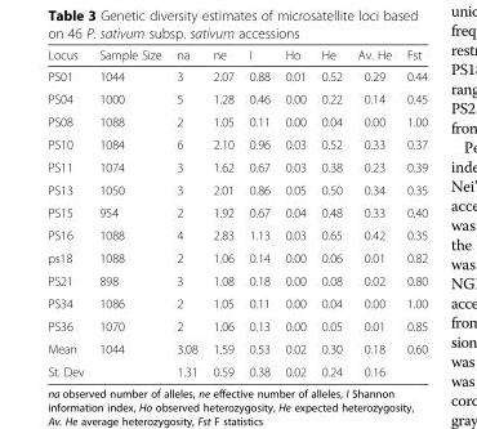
<table><thead><tr><td>Locus</td><td>Sample Size</td><td>na</td><td>ne</td><td>I</td><td>Ho</td><td>He</td><td>Av. He</td><td>Fst</td></tr></thead><tbody><tr><td>PS01</td><td>1044</td><td>3</td><td>2.07</td><td>0.88</td><td>0.01</td><td>0.52</td><td>0.29</td><td>0.44</td></tr><tr><td>PS04</td><td>1000</td><td>5</td><td>1.28</td><td>0.46</td><td>0.00</td><td>0.22</td><td>0.14</td><td>0.45</td></tr><tr><td>PS08</td><td>1088</td><td>2</td><td>1.05</td><td>0.11</td><td>0.00</td><td>0.04</td><td>0.00</td><td>1.00</td></tr><tr><td>PS10</td><td>1084</td><td>6</td><td>2.10</td><td>0.96</td><td>0.03</td><td>0.52</td><td>0.33</td><td>0.37</td></tr><tr><td>PS11</td><td>1074</td><td>3</td><td>1.62</td><td>0.67</td><td>0.03</td><td>0.38</td><td>0.23</td><td>0.39</td></tr><tr><td>PS13</td><td>1050</td><td>3</td><td>2.01</td><td>0.86</td><td>0.05</td><td>0.50</td><td>0.34</td><td>0.35</td></tr><tr><td>PS15</td><td>954</td><td>2</td><td>1.92</td><td>0.67</td><td>0.04</td><td>0.48</td><td>0.33</td><td>0.40</td></tr><tr><td>PS16</td><td>1088</td><td>4</td><td>2.83</td><td>1.13</td><td>0.03</td><td>0.65</td><td>0.42</td><td>0.35</td></tr><tr><td>ps18</td><td>1088</td><td>2</td><td>1.06</td><td>0.14</td><td>0.00</td><td>0.06</td><td>0.01</td><td>0.82</td></tr><tr><td>PS21</td><td>898</td><td>3</td><td>1.08</td><td>0.18</td><td>0.00</td><td>0.08</td><td>0.02</td><td>0.80</td></tr><tr><td>PS34</td><td>1086</td><td>2</td><td>1.05</td><td>0.11</td><td>0.00</td><td>0.04</td><td>0.00</td><td>1.00</td></tr><tr><td>PS36</td><td>1070</td><td>2</td><td>1.06</td><td>0.13</td><td>0.00</td><td>0.05</td><td>0.01</td><td>0.85</td></tr><tr><td>Mean</td><td>1044</td><td>3.08</td><td>1.59</td><td>0.53</td><td>0.02</td><td>0.30</td><td>0.18</td><td>0.60</td></tr><tr><td>St. Dev</td><td></td><td>1.31</td><td>0.59</td><td>0.38</td><td>0.02</td><td>0.24</td><td>0.16</td><td></td></tr></tbody></table>